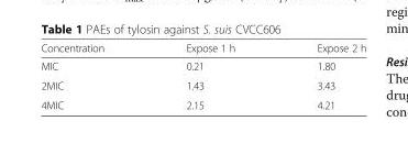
<table><thead><tr><td>Concentration</td><td>Expose 1 h</td><td>Expose 2 h</td></tr></thead><tbody><tr><td>MIC</td><td>0.21</td><td>1.80</td></tr><tr><td>2MIC</td><td>1.43</td><td>3.43</td></tr><tr><td>4MIC</td><td>2.15</td><td>4.21</td></tr></tbody></table>